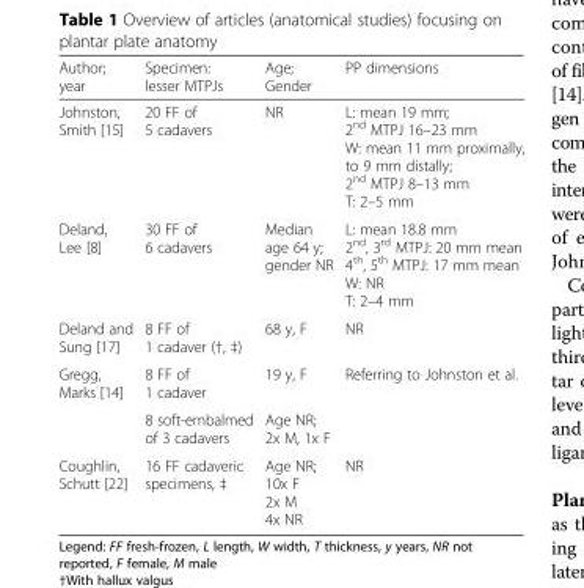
<table><thead><tr><td>Author; year</td><td>Specimen: lesser MTPJs</td><td>Age; Gender</td><td>PP dimensions</td></tr></thead><tbody><tr><td>Johnston, Smith [15]</td><td>20 FF of 5 cadavers</td><td>NR</td><td>L: mean 19 mm; 2<sup>nd</sup> MTPJ 16–23 mm W: mean 11 mm proximally, to 9 mm distally; 2<sup>nd</sup> MTPJ 8–13 mm T: 2–5 mm</td></tr><tr><td>Deland, Lee [8]</td><td>30 FF of 6 cadavers</td><td>Median age 64 y; gender NR</td><td>L: mean 18.8 mm 2<sup>nd</sup>, 3<sup>rd</sup> MTPJ: 20 mm mean 4<sup>th</sup>, 5<sup>th</sup> MTPJ: 17 mm mean W: NR T: 2–4 mm</td></tr><tr><td>Deland and Sung [17]</td><td>8 FF of 1 cadaver (†, ‡)</td><td>68 y, F</td><td>NR</td></tr><tr><td rowspan="2">Gregg, Marks [14]</td><td>8 FF of 1 cadaver</td><td>19 y, F</td><td rowspan="2">Referring to Johnston et al.</td></tr><tr><td>8 soft-embalmed of 3 cadavers</td><td>Age NR; 2x M, 1x F</td></tr><tr><td>Coughlin, Schutt [22]</td><td>16 FF cadaveric specimens, ‡</td><td>Age NR; 10x F 2x M 4x NR</td><td>NR</td></tr></tbody></table>